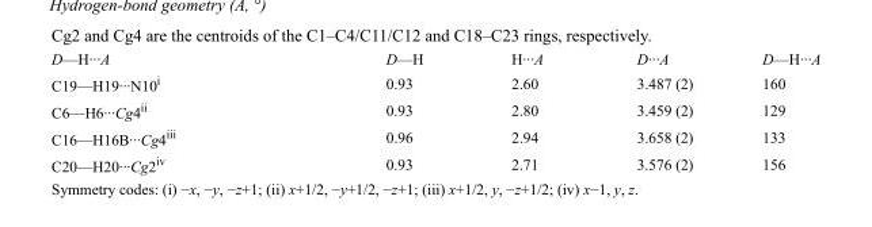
<table><tbody><tr><td>D—H···A</td><td>D—H</td><td>H···A</td><td>D···A</td><td>D—H···A</td></tr><tr><td>C19—H19···N10<sup>i</sup></td><td>0.93</td><td>2.60</td><td>3.487 (2)</td><td>160</td></tr><tr><td>C6—H6···Cg4<sup>ii</sup></td><td>0.93</td><td>2.80</td><td>3.459 (2)</td><td>129</td></tr><tr><td>C16—H16B···Cg4<sup>iii</sup></td><td>0.96</td><td>2.94</td><td>3.658 (2)</td><td>133</td></tr><tr><td>C20—H20···Cg2<sup>iv</sup></td><td>0.93</td><td>2.71</td><td>3.576 (2)</td><td>156</td></tr></tbody></table>